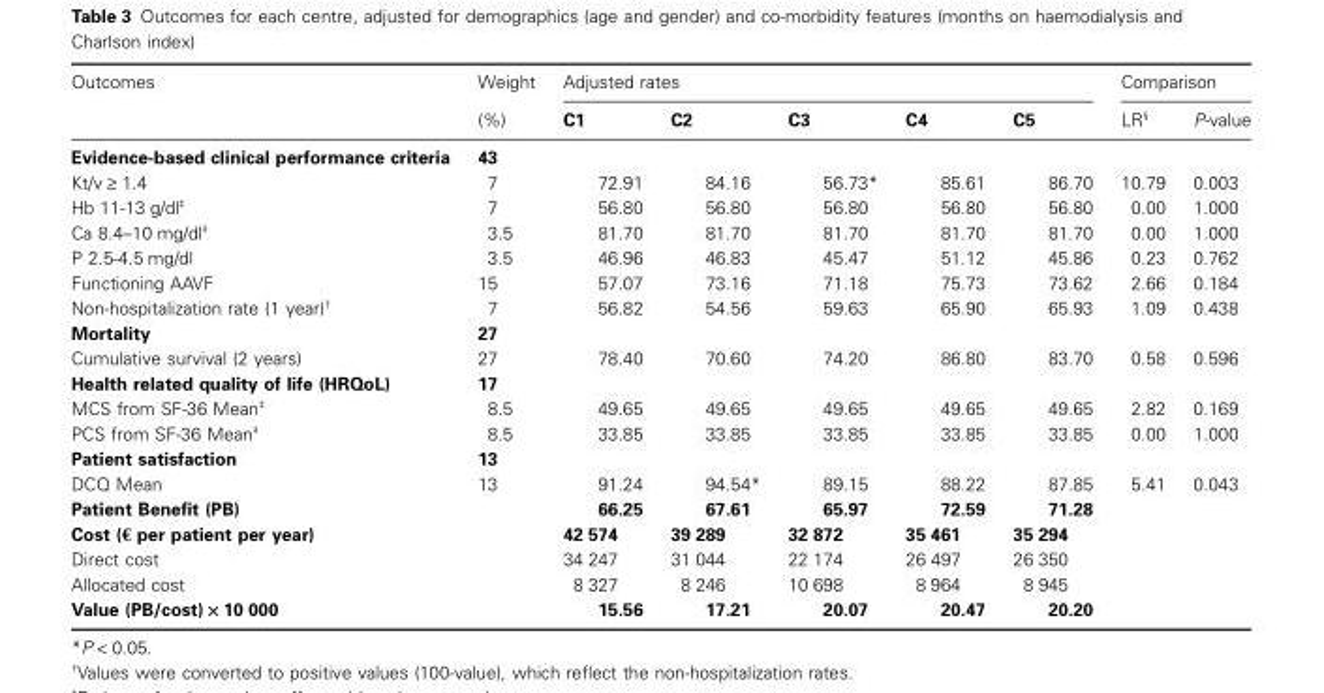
<table><thead><tr><td rowspan="2">Outcomes</td><td rowspan="2">Weight (%)</td><td colspan="5">Adjusted rates</td><td colspan="2">Comparison</td></tr><tr><td>C1</td><td>C2</td><td>C3</td><td>C4</td><td>C5</td><td>LR§</td><td>P-value</td></tr></thead><tbody><tr><td>Evidence-based clinical performance criteria</td><td>43</td><td></td><td></td><td></td><td></td><td></td><td></td><td></td></tr><tr><td>Kt/v ≥ 1.4</td><td>7</td><td>72.91</td><td>84.16</td><td>56.73*</td><td>85.61</td><td>86.70</td><td>10.79</td><td>0.003</td></tr><tr><td>Hb 11-13 g/dl‡</td><td>7</td><td>56.80</td><td>56.80</td><td>56.80</td><td>56.80</td><td>56.80</td><td>0.00</td><td>1.000</td></tr><tr><td>Ca 8.4–10 mg/dl‡</td><td>3.5</td><td>81.70</td><td>81.70</td><td>81.70</td><td>81.70</td><td>81.70</td><td>0.00</td><td>1.000</td></tr><tr><td>P 2.5-4.5 mg/dl</td><td>3.5</td><td>46.96</td><td>46.83</td><td>45.47</td><td>51.12</td><td>45.86</td><td>0.23</td><td>0.762</td></tr><tr><td>Functioning AAVF</td><td>15</td><td>57.07</td><td>73.16</td><td>71.18</td><td>75.73</td><td>73.62</td><td>2.66</td><td>0.184</td></tr><tr><td>Non-hospitalization rate (1 year)†</td><td>7</td><td>56.82</td><td>54.56</td><td>59.63</td><td>65.90</td><td>65.93</td><td>1.09</td><td>0.438</td></tr><tr><td>Mortality</td><td>27</td><td></td><td></td><td></td><td></td><td></td><td></td><td></td></tr><tr><td>Cumulative survival (2 years)</td><td>27</td><td>78.40</td><td>70.60</td><td>74.20</td><td>86.80</td><td>83.70</td><td>0.58</td><td>0.596</td></tr><tr><td>Health related quality of life (HRQoL)</td><td>17</td><td></td><td></td><td></td><td></td><td></td><td></td><td></td></tr><tr><td>MCS from SF-36 Mean‡</td><td>8.5</td><td>49.65</td><td>49.65</td><td>49.65</td><td>49.65</td><td>49.65</td><td>2.82</td><td>0.169</td></tr><tr><td>PCS from SF-36 Mean‡</td><td>8.5</td><td>33.85</td><td>33.85</td><td>33.85</td><td>33.85</td><td>33.85</td><td>0.00</td><td>1.000</td></tr><tr><td>Patient satisfaction</td><td>13</td><td></td><td></td><td></td><td></td><td></td><td></td><td></td></tr><tr><td>DCQ Mean</td><td>13</td><td>91.24</td><td>94.54*</td><td>89.15</td><td>88.22</td><td>87.85</td><td>5.41</td><td>0.043</td></tr><tr><td>Patient Benefit (PB)</td><td></td><td>66.25</td><td>67.61</td><td>65.97</td><td>72.59</td><td>71.28</td><td></td><td></td></tr><tr><td>Cost (€ per patient per year)</td><td></td><td>42 574</td><td>39 289</td><td>32 872</td><td>35 461</td><td>35 294</td><td></td><td></td></tr><tr><td>Direct cost</td><td></td><td>34 247</td><td>31 044</td><td>22 174</td><td>26 497</td><td>26 350</td><td></td><td></td></tr><tr><td>Allocated cost</td><td></td><td>8 327</td><td>8 246</td><td>10 698</td><td>8 964</td><td>8 945</td><td></td><td></td></tr><tr><td>Value (PB/cost) × 10 000</td><td></td><td>15.56</td><td>17.21</td><td>20.07</td><td>20.47</td><td>20.20</td><td></td><td></td></tr></tbody></table>